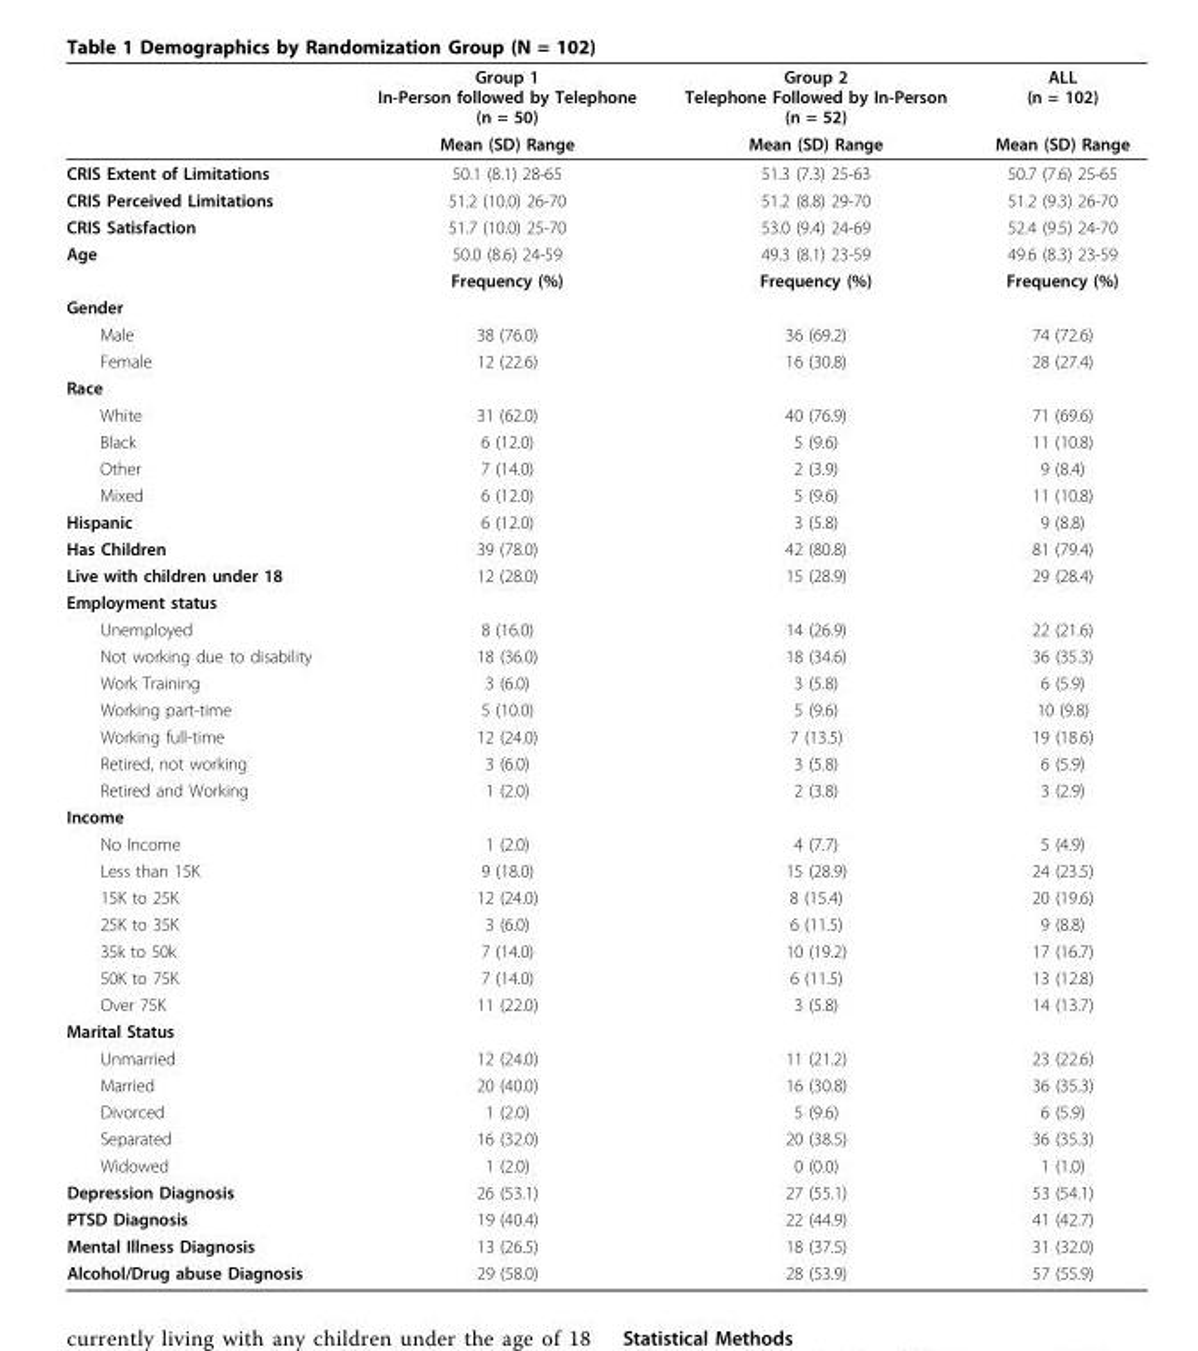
<table><thead><tr><td rowspan="2"></td><td rowspan="2">Group 1 In-Person followed by Telephone (n = 50) Mean (SD) Range</td><td rowspan="2">Group 2 Telephone Followed by In-Person (n = 52) Mean (SD) Range</td><td rowspan="2">ALL (n = 102) Mean (SD) Range</td></tr><tr></tr></thead><tbody><tr><td>CRIS Extent of Limitations</td><td>50.1 (8.1) 28-65</td><td>51.3 (7.3) 25-63</td><td>50.7 (7.6) 25-65</td></tr><tr><td>CRIS Perceived Limitations</td><td>51.2 (10.0) 26-70</td><td>51.2 (8.8) 29-70</td><td>51.2 (9.3) 26-70</td></tr><tr><td>CRIS Satisfaction</td><td>51.7 (10.0) 25-70</td><td>53.0 (9.4) 24-69</td><td>52.4 (9.5) 24-70</td></tr><tr><td rowspan="2">Age</td><td>50.0 (8.6) 24-59</td><td>49.3 (8.1) 23-59</td><td>49.6 (8.3) 23-59</td></tr><tr><td>Frequency (%)</td><td>Frequency (%)</td><td>Frequency (%)</td></tr><tr><td colspan="4">Gender</td></tr><tr><td>Male</td><td>38 (76.0)</td><td>36 (69.2)</td><td>74 (72.6)</td></tr><tr><td>Female</td><td>12 (22.6)</td><td>16 (30.8)</td><td>28 (27.4)</td></tr><tr><td colspan="4">Race</td></tr><tr><td>White</td><td>31 (62.0)</td><td>40 (76.9)</td><td>71 (69.6)</td></tr><tr><td>Black</td><td>6 (12.0)</td><td>5 (9.6)</td><td>11 (10.8)</td></tr><tr><td>Other</td><td>7 (14.0)</td><td>2 (3.9)</td><td>9 (8.4)</td></tr><tr><td>Mixed</td><td>6 (12.0)</td><td>5 (9.6)</td><td>11 (10.8)</td></tr><tr><td>Hispanic</td><td>6 (12.0)</td><td>3 (5.8)</td><td>9 (8.8)</td></tr><tr><td>Has Children</td><td>39 (78.0)</td><td>42 (80.8)</td><td>81 (79.4)</td></tr><tr><td>Live with children under 18</td><td>12 (28.0)</td><td>15 (28.9)</td><td>29 (28.4)</td></tr><tr><td colspan="4">Employment status</td></tr><tr><td>Unemployed</td><td>8 (16.0)</td><td>14 (26.9)</td><td>22 (21.6)</td></tr><tr><td>Not working due to disability</td><td>18 (36.0)</td><td>18 (34.6)</td><td>36 (35.3)</td></tr><tr><td>Work Training</td><td>3 (6.0)</td><td>3 (5.8)</td><td>6 (5.9)</td></tr><tr><td>Working part-time</td><td>5 (10.0)</td><td>5 (9.6)</td><td>10 (9.8)</td></tr><tr><td>Working full-time</td><td>12 (24.0)</td><td>7 (13.5)</td><td>19 (18.6)</td></tr><tr><td>Retired, not working</td><td>3 (6.0)</td><td>3 (5.8)</td><td>6 (5.9)</td></tr><tr><td>Retired and Working</td><td>1 (2.0)</td><td>2 (3.8)</td><td>3 (2.9)</td></tr><tr><td colspan="4">Income</td></tr><tr><td>No Income</td><td>1 (2.0)</td><td>4 (7.7)</td><td>5 (4.9)</td></tr><tr><td>Less than 15K</td><td>9 (18.0)</td><td>15 (28.9)</td><td>24 (23.5)</td></tr><tr><td>15K to 25K</td><td>12 (24.0)</td><td>8 (15.4)</td><td>20 (19.6)</td></tr><tr><td>25K to 35K</td><td>3 (6.0)</td><td>6 (11.5)</td><td>9 (8.8)</td></tr><tr><td>35k to 50k</td><td>7 (14.0)</td><td>10 (19.2)</td><td>17 (16.7)</td></tr><tr><td>50K to 75K</td><td>7 (14.0)</td><td>6 (11.5)</td><td>13 (12.8)</td></tr><tr><td>Over 75K</td><td>11 (22.0)</td><td>3 (5.8)</td><td>14 (13.7)</td></tr><tr><td colspan="4">Marital Status</td></tr><tr><td>Unmarried</td><td>12 (24.0)</td><td>11 (21.2)</td><td>23 (22.6)</td></tr><tr><td>Married</td><td>20 (40.0)</td><td>16 (30.8)</td><td>36 (35.3)</td></tr><tr><td>Divorced</td><td>1 (2.0)</td><td>5 (9.6)</td><td>6 (5.9)</td></tr><tr><td>Separated</td><td>16 (32.0)</td><td>20 (38.5)</td><td>36 (35.3)</td></tr><tr><td>Widowed</td><td>1 (2.0)</td><td>0 (0.0)</td><td>1 (1.0)</td></tr><tr><td>Depression Diagnosis</td><td>26 (53.1)</td><td>27 (55.1)</td><td>53 (54.1)</td></tr><tr><td>PTSD Diagnosis</td><td>19 (40.4)</td><td>22 (44.9)</td><td>41 (42.7)</td></tr><tr><td>Mental Illness Diagnosis</td><td>13 (26.5)</td><td>18 (37.5)</td><td>31 (32.0)</td></tr><tr><td>Alcohol/Drug abuse Diagnosis</td><td>29 (58.0)</td><td>28 (53.9)</td><td>57 (55.9)</td></tr></tbody></table>